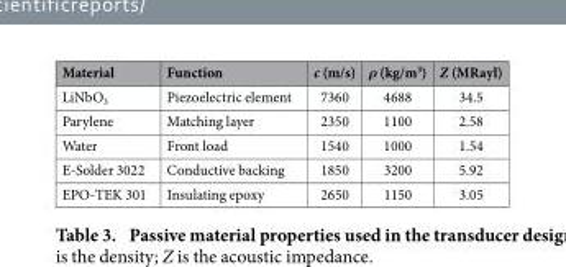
<table><thead><tr><td>Material</td><td>Function</td><td>c (m/s)</td><td>ρ (kg/m<sup>3</sup>)</td><td>Z (MRayl)</td></tr></thead><tbody><tr><td>LiNbO<sub>3</sub></td><td>Piezoelectric element</td><td>7360</td><td>4688</td><td>34.5</td></tr><tr><td>Parylene</td><td>Matching layer</td><td>2350</td><td>1100</td><td>2.58</td></tr><tr><td>Water</td><td>Front load</td><td>1540</td><td>1000</td><td>1.54</td></tr><tr><td>E-Solder 3022</td><td>Conductive backing</td><td>1850</td><td>3200</td><td>5.92</td></tr><tr><td>EPO-TEK 301</td><td>Insulating epoxy</td><td>2650</td><td>1150</td><td>3.05</td></tr></tbody></table>